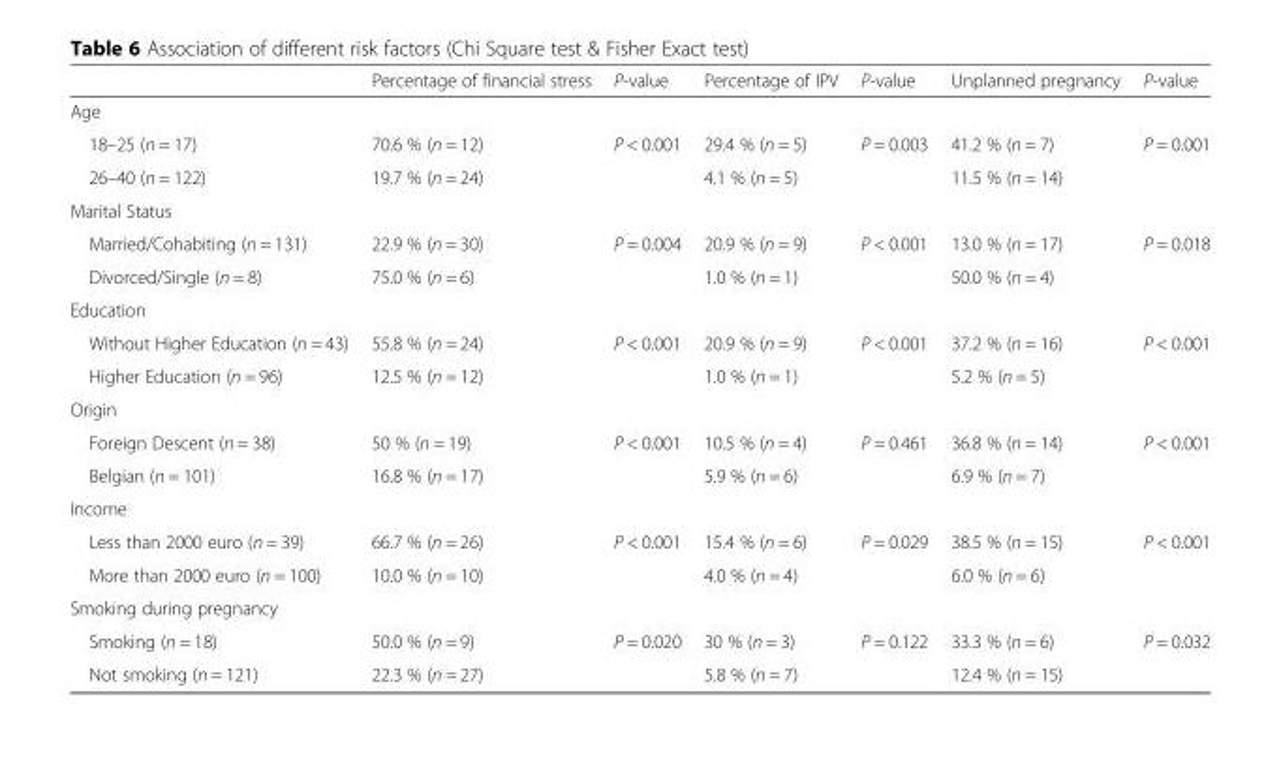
<table><thead><tr><td></td><td>Percentage of financial stress</td><td>P-value</td><td>Percentage of IPV</td><td>P-value</td><td>Unplanned pregnancy</td><td>P-value</td></tr></thead><tbody><tr><td colspan="7">Age</td></tr><tr><td>18–25 (n = 17)</td><td>70.6 % (n = 12)</td><td rowspan="2">P &lt; 0.001</td><td>29.4 % (n = 5)</td><td rowspan="2">P = 0.003</td><td>41.2 % (n = 7)</td><td rowspan="2">P = 0.001</td></tr><tr><td>26–40 (n = 122)</td><td>19.7 % (n = 24)</td><td>4.1 % (n = 5)</td><td>11.5 % (n = 14)</td></tr><tr><td colspan="7">Marital Status</td></tr><tr><td>Married/Cohabiting (n = 131)</td><td>22.9 % (n = 30)</td><td rowspan="2">P = 0.004</td><td>20.9 % (n = 9)</td><td rowspan="2">P &lt; 0.001</td><td>13.0 % (n = 17)</td><td rowspan="2">P = 0.018</td></tr><tr><td>Divorced/Single (n = 8)</td><td>75.0 % (n = 6)</td><td>1.0 % (n = 1)</td><td>50.0 % (n = 4)</td></tr><tr><td colspan="7">Education</td></tr><tr><td>Without Higher Education (n = 43)</td><td>55.8 % (n = 24)</td><td rowspan="2">P &lt; 0.001</td><td>20.9 % (n = 9)</td><td rowspan="2">P &lt; 0.001</td><td>37.2 % (n = 16)</td><td rowspan="2">P &lt; 0.001</td></tr><tr><td>Higher Education (n = 96)</td><td>12.5 % (n = 12)</td><td>1.0 % (n = 1)</td><td>5.2 % (n = 5)</td></tr><tr><td colspan="7">Origin</td></tr><tr><td>Foreign Descent (n = 38)</td><td>50 % (n = 19)</td><td rowspan="2">P &lt; 0.001</td><td>10.5 % (n = 4)</td><td rowspan="2">P = 0.461</td><td>36.8 % (n = 14)</td><td rowspan="2">P &lt; 0.001</td></tr><tr><td>Belgian (n = 101)</td><td>16.8 % (n = 17)</td><td>5.9 % (n = 6)</td><td>6.9 % (n = 7)</td></tr><tr><td colspan="7">Income</td></tr><tr><td>Less than 2000 euro (n = 39)</td><td>66.7 % (n = 26)</td><td rowspan="2">P &lt; 0.001</td><td>15.4 % (n = 6)</td><td rowspan="2">P = 0.029</td><td>38.5 % (n = 15)</td><td rowspan="2">P &lt; 0.001</td></tr><tr><td>More than 2000 euro (n = 100)</td><td>10.0 % (n = 10)</td><td>4.0 % (n = 4)</td><td>6.0 % (n = 6)</td></tr><tr><td colspan="7">Smoking during pregnancy</td></tr><tr><td>Smoking (n = 18)</td><td>50.0 % (n = 9)</td><td rowspan="2">P = 0.020</td><td>30 % (n = 3)</td><td rowspan="2">P = 0.122</td><td>33.3 % (n = 6)</td><td rowspan="2">P = 0.032</td></tr><tr><td>Not smoking (n = 121)</td><td>22.3 % (n = 27)</td><td>5.8 % (n = 7)</td><td>12.4 % (n = 15)</td></tr></tbody></table>